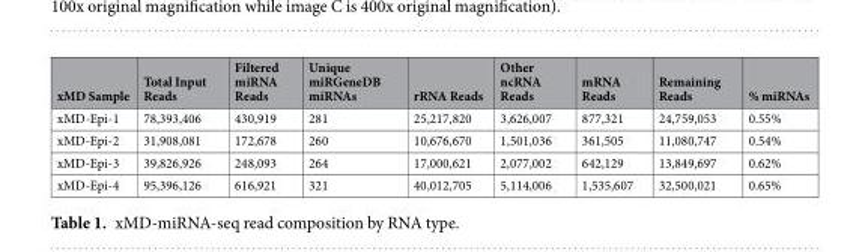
<table><thead><tr><td>xMD Sample</td><td>Total Input Reads</td><td>Filtered miRNA Reads</td><td>Unique miRGeneDB miRNAs</td><td>rRNA Reads</td><td>Other ncRNA Reads</td><td>mRNA Reads</td><td>Remaining Reads</td><td>% miRNAs</td></tr></thead><tbody><tr><td>xMD-Epi-1</td><td>78,393,406</td><td>430,919</td><td>281</td><td>25,217,820</td><td>3,626,007</td><td>877,321</td><td>24,759,053</td><td>0.55%</td></tr><tr><td>xMD-Epi-2</td><td>31,908,081</td><td>172,678</td><td>260</td><td>10,676,670</td><td>1,501,036</td><td>361,505</td><td>11,080,747</td><td>0.54%</td></tr><tr><td>xMD-Epi-3</td><td>39,826,926</td><td>248,093</td><td>264</td><td>17,000,621</td><td>2,077,002</td><td>642,129</td><td>13,849,697</td><td>0.62%</td></tr><tr><td>xMD-Epi-4</td><td>95,396,126</td><td>616,921</td><td>321</td><td>40,012,705</td><td>5,114,006</td><td>1,535,607</td><td>32,500,021</td><td>0.65%</td></tr></tbody></table>